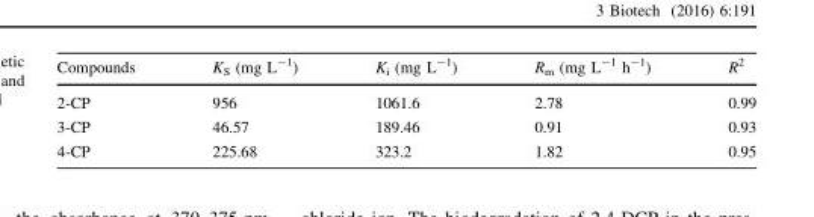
<table><thead><tr><td>Compounds</td><td>K<sub>S</sub> (mg L<sup>-1</sup>)</td><td>K<sub>i</sub> (mg L<sup>-1</sup>)</td><td>R<sub>m</sub> (mg L<sup>-1</sup> h<sup>-1</sup>)</td><td>R<sup>2</sup></td></tr></thead><tbody><tr><td>2-CP</td><td>956</td><td>1061.6</td><td>2.78</td><td>0.99</td></tr><tr><td>3-CP</td><td>46.57</td><td>189.46</td><td>0.91</td><td>0.93</td></tr><tr><td>4-CP</td><td>225.68</td><td>323.2</td><td>1.82</td><td>0.95</td></tr></tbody></table>